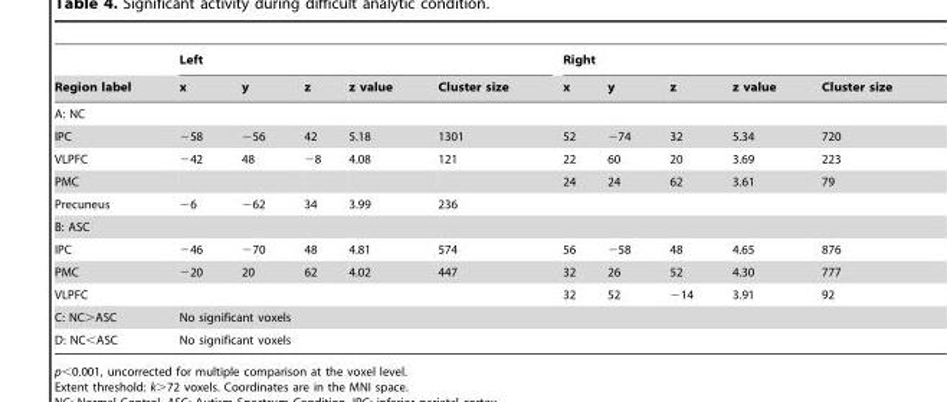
<table><thead><tr><td rowspan="2">Region label</td><td colspan="5">Left</td><td colspan="5">Right</td></tr><tr><td>x</td><td>y</td><td>z</td><td>z value</td><td>Cluster size</td><td>x</td><td>y</td><td>z</td><td>z value</td><td>Cluster size</td></tr></thead><tbody><tr><td colspan="11">A: NC</td></tr><tr><td>IPC</td><td>−58</td><td>−56</td><td>42</td><td>5.18</td><td>1301</td><td>52</td><td>−74</td><td>32</td><td>5.34</td><td>720</td></tr><tr><td>VLPFC</td><td>−42</td><td>48</td><td>−8</td><td>4.08</td><td>121</td><td>22</td><td>60</td><td>20</td><td>3.69</td><td>223</td></tr><tr><td>PMC</td><td></td><td></td><td></td><td></td><td></td><td>24</td><td>24</td><td>62</td><td>3.61</td><td>79</td></tr><tr><td>Precuneus</td><td>−6</td><td>−62</td><td>34</td><td>3.99</td><td>236</td><td></td><td></td><td></td><td></td><td></td></tr><tr><td colspan="11">B: ASC</td></tr><tr><td>IPC</td><td>−46</td><td>−70</td><td>48</td><td>4.81</td><td>574</td><td>56</td><td>−58</td><td>48</td><td>4.65</td><td>876</td></tr><tr><td>PMC</td><td>−20</td><td>20</td><td>62</td><td>4.02</td><td>447</td><td>32</td><td>26</td><td>52</td><td>4.30</td><td>777</td></tr><tr><td>VLPFC</td><td></td><td></td><td></td><td></td><td></td><td>32</td><td>52</td><td>−14</td><td>3.91</td><td>92</td></tr><tr><td>C: NC&gt;ASC</td><td colspan="10">No significant voxels</td></tr><tr><td>D: NC&lt;ASC</td><td colspan="10">No significant voxels</td></tr></tbody></table>